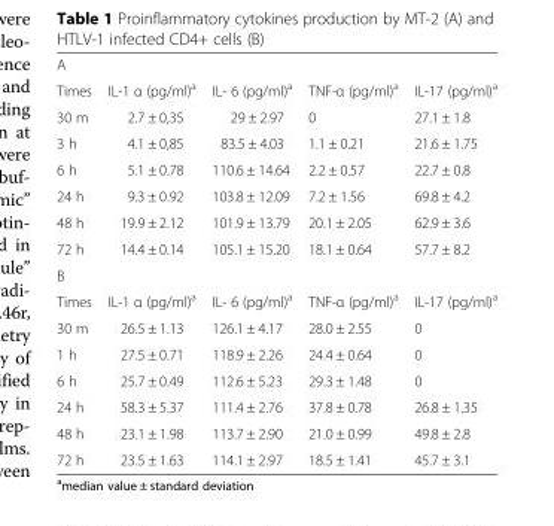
<table><tbody><tr><td colspan="5">A</td></tr><tr><td>Times</td><td>IL-1 α (pg/ml)<sup>a</sup></td><td>IL- 6 (pg/ml)<sup>a</sup></td><td>TNF-α (pg/ml)<sup>a</sup></td><td>IL-17 (pg/ml)<sup>a</sup></td></tr><tr><td>30 m</td><td>2.7 ± 0,35</td><td>29 ± 2.97</td><td>0</td><td>27.1 ± 1.8</td></tr><tr><td>3 h</td><td>4.1 ± 0,85</td><td>83.5 ± 4.03</td><td>1.1 ± 0.21</td><td>21.6 ± 1.75</td></tr><tr><td>6 h</td><td>5.1 ± 0.78</td><td>110.6 ± 14.64</td><td>2.2 ± 0.57</td><td>22.7 ± 0.8</td></tr><tr><td>24 h</td><td>9.3 ± 0.92</td><td>103.8 ± 12.09</td><td>7.2 ± 1.56</td><td>69.8 ± 4.2</td></tr><tr><td>48 h</td><td>19.9 ± 2.12</td><td>101.9 ± 13.79</td><td>20.1 ± 2.05</td><td>62.9 ± 3.6</td></tr><tr><td>72 h</td><td>14.4 ± 0.14</td><td>105.1 ± 15.20</td><td>18.1 ± 0.64</td><td>57.7 ± 8.2</td></tr><tr><td colspan="5">B</td></tr><tr><td>Times</td><td>IL-1 α (pg/ml)<sup>a</sup></td><td>IL- 6 (pg/ml)<sup>a</sup></td><td>TNF-α (pg/ml)<sup>a</sup></td><td>IL-17 (pg/ml)<sup>a</sup></td></tr><tr><td>30 m</td><td>26.5 ± 1.13</td><td>126.1 ± 4.17</td><td>28.0 ± 2.55</td><td>0</td></tr><tr><td>1 h</td><td>27.5 ± 0.71</td><td>118.9 ± 2.26</td><td>24.4 ± 0.64</td><td>0</td></tr><tr><td>6 h</td><td>25.7 ± 0.49</td><td>112.6 ± 5.23</td><td>29.3 ± 1.48</td><td>0</td></tr><tr><td>24 h</td><td>58.3 ± 5.37</td><td>111.4 ± 2.76</td><td>37.8 ± 0.78</td><td>26.8 ± 1.35</td></tr><tr><td>48 h</td><td>23.1 ± 1.98</td><td>113.7 ± 2.90</td><td>21.0 ± 0.99</td><td>49.8 ± 2.8</td></tr><tr><td>72 h</td><td>23.5 ± 1.63</td><td>114.1 ± 2.97</td><td>18.5 ± 1.41</td><td>45.7 ± 3.1</td></tr></tbody></table>